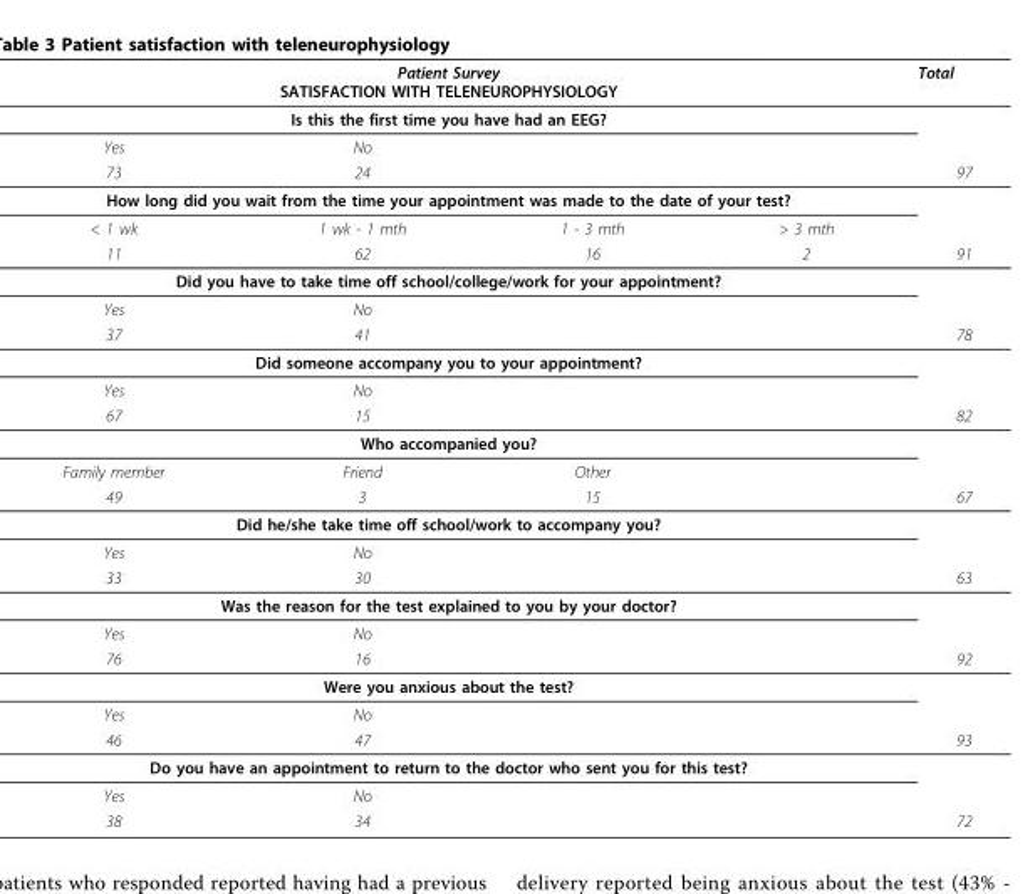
<table><thead><tr><td rowspan="2" colspan="4">Patient Survey SATISFACTION WITH TELENEUROPHYSIOLOGY Is this the first time you have had an EEG?</td><td rowspan="3">Total</td></tr><tr></tr><tr><td>Yes</td><td>No</td><td></td><td></td></tr></thead><tbody><tr><td>73</td><td>24</td><td></td><td></td><td>97</td></tr><tr><td colspan="5">How long did you wait from the time your appointment was made to the date of your test?</td></tr><tr><td>&lt; 1 wk</td><td>1 wk - 1 mth</td><td>1 - 3 mth</td><td>&gt; 3 mth</td><td></td></tr><tr><td>11</td><td>62</td><td>16</td><td>2</td><td>91</td></tr><tr><td colspan="5">Did you have to take time off school/college/work for your appointment?</td></tr><tr><td>Yes</td><td>No</td><td></td><td></td><td></td></tr><tr><td>37</td><td>41</td><td></td><td></td><td>78</td></tr><tr><td colspan="5">Did someone accompany you to your appointment?</td></tr><tr><td>Yes</td><td>No</td><td></td><td></td><td></td></tr><tr><td>67</td><td>15</td><td></td><td></td><td>82</td></tr><tr><td colspan="5">Who accompanied you?</td></tr><tr><td>Family member</td><td>Friend</td><td>Other</td><td></td><td></td></tr><tr><td>49</td><td>3</td><td>15</td><td></td><td>67</td></tr><tr><td colspan="5">Did he/she take time off school/work to accompany you?</td></tr><tr><td>Yes</td><td>No</td><td></td><td></td><td></td></tr><tr><td>33</td><td>30</td><td></td><td></td><td>63</td></tr><tr><td colspan="5">Was the reason for the test explained to you by your doctor?</td></tr><tr><td>Yes</td><td>No</td><td></td><td></td><td></td></tr><tr><td>76</td><td>16</td><td></td><td></td><td>92</td></tr><tr><td colspan="5">Were you anxious about the test?</td></tr><tr><td>Yes</td><td>No</td><td></td><td></td><td></td></tr><tr><td>46</td><td>47</td><td></td><td></td><td>93</td></tr><tr><td colspan="5">Do you have an appointment to return to the doctor who sent you for this test?</td></tr><tr><td>Yes</td><td>No</td><td></td><td></td><td></td></tr><tr><td>38</td><td>34</td><td></td><td></td><td>72</td></tr></tbody></table>